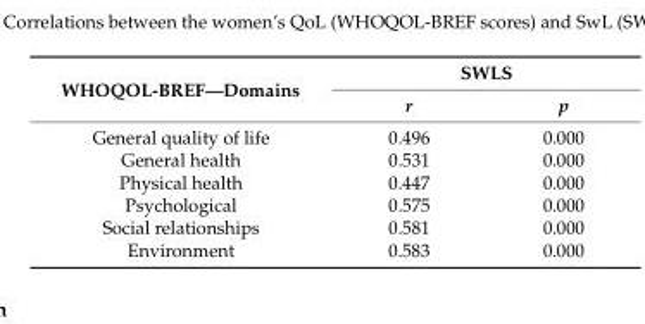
<table><thead><tr><td rowspan="2">WHOQOL-BREF—Domains</td><td colspan="2">SWLS</td></tr><tr><td>r</td><td>p</td></tr></thead><tbody><tr><td>General quality of life</td><td>0.496</td><td>0.000</td></tr><tr><td>General health</td><td>0.531</td><td>0.000</td></tr><tr><td>Physical health</td><td>0.447</td><td>0.000</td></tr><tr><td>Psychological</td><td>0.575</td><td>0.000</td></tr><tr><td>Social relationships</td><td>0.581</td><td>0.000</td></tr><tr><td>Environment</td><td>0.583</td><td>0.000</td></tr></tbody></table>